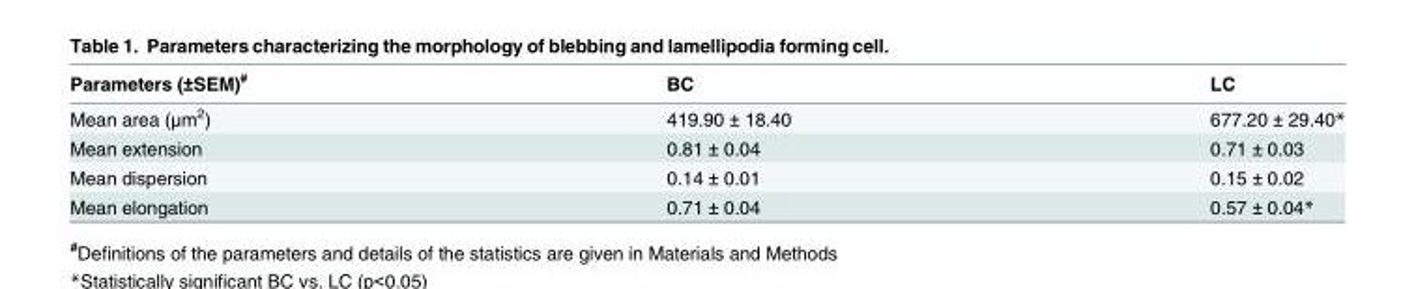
<table><thead><tr><td>Parameters (±SEM)<sup>#</sup></td><td>BC</td><td>LC</td></tr></thead><tbody><tr><td>Mean area (μm<sup>2</sup>)</td><td>419.90 ± 18.40</td><td>677.20 ± 29.40*</td></tr><tr><td>Mean extension</td><td>0.81 ± 0.04</td><td>0.71 ± 0.03</td></tr><tr><td>Mean dispersion</td><td>0.14 ± 0.01</td><td>0.15 ± 0.02</td></tr><tr><td>Mean elongation</td><td>0.71 ± 0.04</td><td>0.57 ± 0.04*</td></tr></tbody></table>